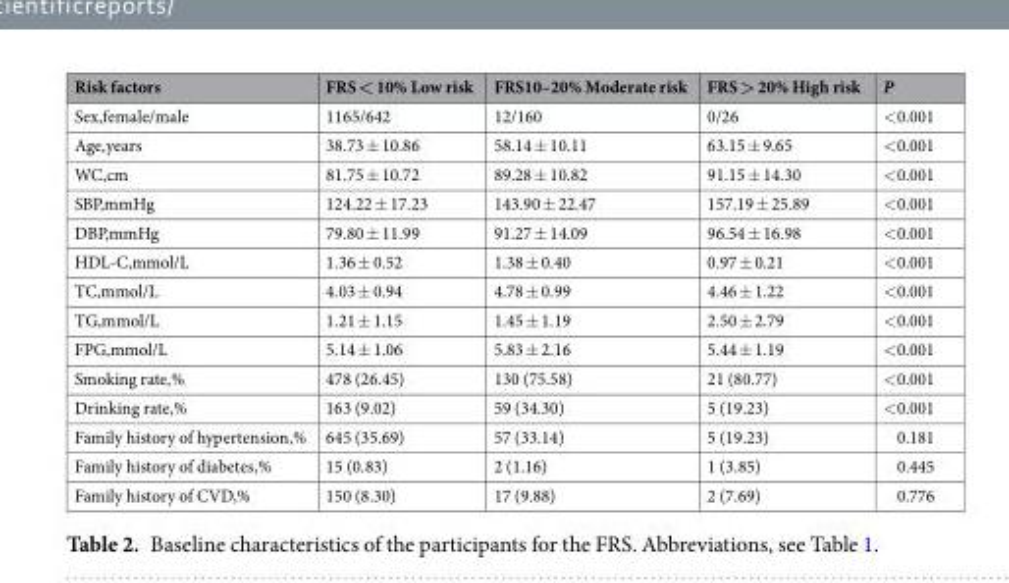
<table><thead><tr><td>Risk factors</td><td>FRS &lt; 10% Low risk</td><td>FRS10–20% Moderate risk</td><td>FRS &gt; 20% High risk</td><td>P</td></tr></thead><tbody><tr><td>Sex,female/male</td><td>1165/642</td><td>12/160</td><td>0/26</td><td>&lt;0.001</td></tr><tr><td>Age,years</td><td>38.73 ± 10.86</td><td>58.14 ± 10.11</td><td>63.15 ± 9.65</td><td>&lt;0.001</td></tr><tr><td>WC,cm</td><td>81.75 ± 10.72</td><td>89.28 ± 10.82</td><td>91.15 ± 14.30</td><td>&lt;0.001</td></tr><tr><td>SBP,mmHg</td><td>124.22 ± 17.23</td><td>143.90 ± 22.47</td><td>157.19 ± 25.89</td><td>&lt;0.001</td></tr><tr><td>DBP,mmHg</td><td>79.80 ± 11.99</td><td>91.27 ± 14.09</td><td>96.54 ± 16.98</td><td>&lt;0.001</td></tr><tr><td>HDL-C,mmol/L</td><td>1.36 ± 0.52</td><td>1.38 ± 0.40</td><td>0.97 ± 0.21</td><td>&lt;0.001</td></tr><tr><td>TC,mmol/L</td><td>4.03 ± 0.94</td><td>4.78 ± 0.99</td><td>4.46 ± 1.22</td><td>&lt;0.001</td></tr><tr><td>TG,mmol/L</td><td>1.21 ± 1.15</td><td>1.45 ± 1.19</td><td>2.50 ± 2.79</td><td>&lt;0.001</td></tr><tr><td>FPG,mmol/L</td><td>5.14 ± 1.06</td><td>5.83 ± 2.16</td><td>5.44 ± 1.19</td><td>&lt;0.001</td></tr><tr><td>Smoking rate,%</td><td>478 (26.45)</td><td>130 (75.58)</td><td>21 (80.77)</td><td>&lt;0.001</td></tr><tr><td>Drinking rate,%</td><td>163 (9.02)</td><td>59 (34.30)</td><td>5 (19.23)</td><td>&lt;0.001</td></tr><tr><td>Family history of hypertension,%</td><td>645 (35.69)</td><td>57 (33.14)</td><td>5 (19.23)</td><td>0.181</td></tr><tr><td>Family history of diabetes,%</td><td>15 (0.83)</td><td>2 (1.16)</td><td>1 (3.85)</td><td>0.445</td></tr><tr><td>Family history of CVD,%</td><td>150 (8.30)</td><td>17 (9.88)</td><td>2 (7.69)</td><td>0.776</td></tr></tbody></table>